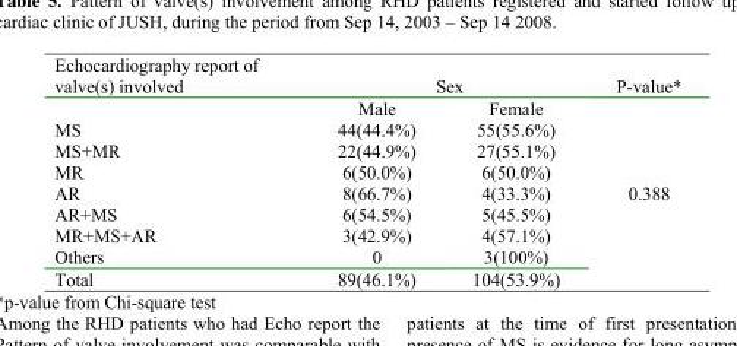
<table><thead><tr><td rowspan="2">Echocardiography report of valve(s) involved</td><td colspan="2">Sex</td><td rowspan="2">P-value*</td></tr><tr><td>Male</td><td>Female</td></tr></thead><tbody><tr><td>MS</td><td>44(44.4%)</td><td>55(55.6%)</td><td></td></tr><tr><td>MS+MR</td><td>22(44.9%)</td><td>27(55.1%)</td><td></td></tr><tr><td>MR</td><td>6(50.0%)</td><td>6(50.0%)</td><td></td></tr><tr><td>AR</td><td>8(66.7%)</td><td>4(33.3%)</td><td>0.388</td></tr><tr><td>AR+MS</td><td>6(54.5%)</td><td>5(45.5%)</td><td></td></tr><tr><td>MR+MS+AR</td><td>3(42.9%)</td><td>4(57.1%)</td><td></td></tr><tr><td>Others</td><td>0</td><td>3(100%)</td><td></td></tr><tr><td>Total</td><td>89(46.1%)</td><td>104(53.9%)</td><td></td></tr></tbody></table>